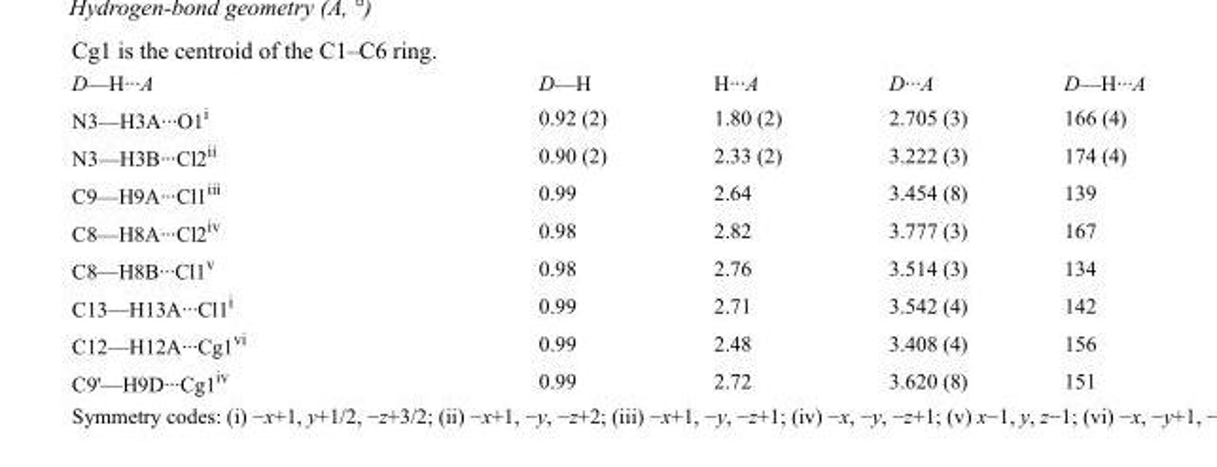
<table><tbody><tr><td>D—H···A</td><td>D—H</td><td>H···A</td><td>D···A</td><td>D—H···A</td></tr><tr><td>N3—H3A···O1<sup>i</sup></td><td>0.92 (2)</td><td>1.80 (2)</td><td>2.705 (3)</td><td>166 (4)</td></tr><tr><td>N3—H3B···Cl2<sup>ii</sup></td><td>0.90 (2)</td><td>2.33 (2)</td><td>3.222 (3)</td><td>174 (4)</td></tr><tr><td>C9—H9A···Cl1<sup>iii</sup></td><td>0.99</td><td>2.64</td><td>3.454 (8)</td><td>139</td></tr><tr><td>C8—H8A···Cl2<sup>iv</sup></td><td>0.98</td><td>2.82</td><td>3.777 (3)</td><td>167</td></tr><tr><td>C8—H8B···Cl1<sup>v</sup></td><td>0.98</td><td>2.76</td><td>3.514 (3)</td><td>134</td></tr><tr><td>C13—H13A···Cl1<sup>i</sup></td><td>0.99</td><td>2.71</td><td>3.542 (4)</td><td>142</td></tr><tr><td>C12—H12A···Cg1<sup>vi</sup></td><td>0.99</td><td>2.48</td><td>3.408 (4)</td><td>156</td></tr><tr><td>C9&#x27;—H9D···Cg1<sup>iv</sup></td><td>0.99</td><td>2.72</td><td>3.620 (8)</td><td>151</td></tr></tbody></table>